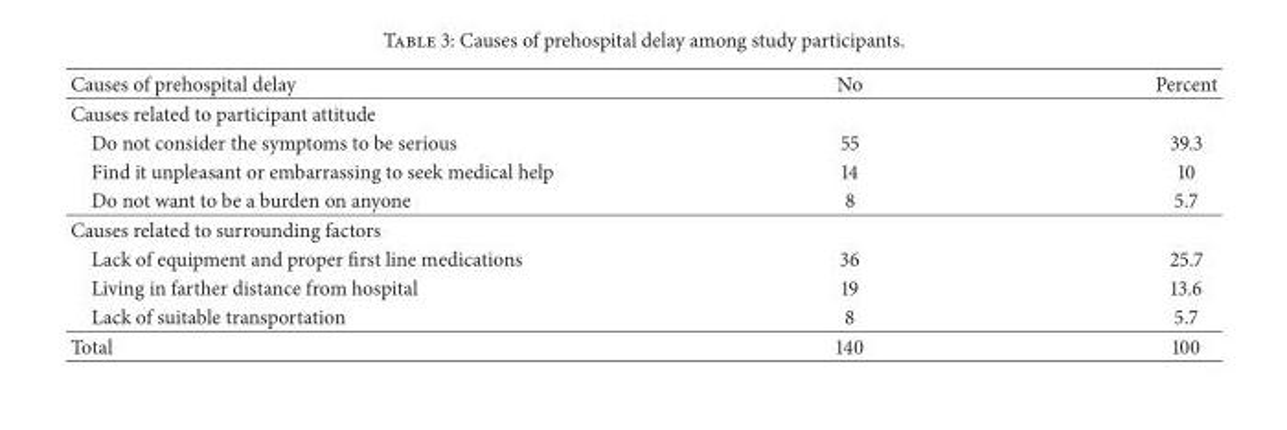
<table><thead><tr><td>Causes of prehospital delay</td><td>No</td><td>Percent</td></tr></thead><tbody><tr><td colspan="3">Causes related to participant attitude</td></tr><tr><td>Do not consider the symptoms to be serious</td><td>55</td><td>39.3</td></tr><tr><td>Find it unpleasant or embarrassing to seek medical help</td><td>14</td><td>10</td></tr><tr><td>Do not want to be a burden on anyone</td><td>8</td><td>5.7</td></tr><tr><td colspan="3">Causes related to surrounding factors</td></tr><tr><td>Lack of equipment and proper first line medications</td><td>36</td><td>25.7</td></tr><tr><td>Living in farther distance from hospital</td><td>19</td><td>13.6</td></tr><tr><td>Lack of suitable transportation</td><td>8</td><td>5.7</td></tr><tr><td>Total</td><td>140</td><td>100</td></tr></tbody></table>